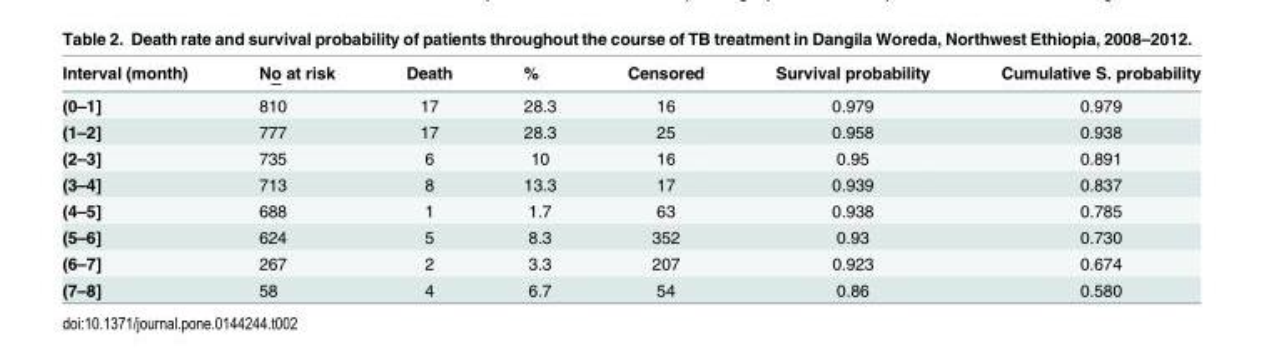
<table><thead><tr><td>Interval (month)</td><td>No at risk</td><td>Death</td><td>%</td><td>Censored</td><td>Survival probability</td><td>Cumulative S. probability</td></tr></thead><tbody><tr><td>(0–1]</td><td>810</td><td>17</td><td>28.3</td><td>16</td><td>0.979</td><td>0.979</td></tr><tr><td>(1–2]</td><td>777</td><td>17</td><td>28.3</td><td>25</td><td>0.958</td><td>0.938</td></tr><tr><td>(2–3]</td><td>735</td><td>6</td><td>10</td><td>16</td><td>0.95</td><td>0.891</td></tr><tr><td>(3–4]</td><td>713</td><td>8</td><td>13.3</td><td>17</td><td>0.939</td><td>0.837</td></tr><tr><td>(4–5]</td><td>688</td><td>1</td><td>1.7</td><td>63</td><td>0.938</td><td>0.785</td></tr><tr><td>(5–6]</td><td>624</td><td>5</td><td>8.3</td><td>352</td><td>0.93</td><td>0.730</td></tr><tr><td>(6–7]</td><td>267</td><td>2</td><td>3.3</td><td>207</td><td>0.923</td><td>0.674</td></tr><tr><td>(7–8]</td><td>58</td><td>4</td><td>6.7</td><td>54</td><td>0.86</td><td>0.580</td></tr></tbody></table>